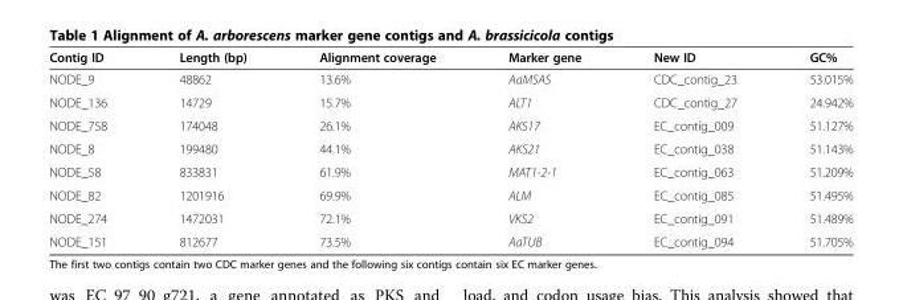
<table><thead><tr><td>Contig ID</td><td>Length (bp)</td><td>Alignment coverage</td><td>Marker gene</td><td>New ID</td><td>GC%</td></tr></thead><tbody><tr><td>NODE_9</td><td>48862</td><td>13.6%</td><td>AaMSAS</td><td>CDC_contig_23</td><td>53.015%</td></tr><tr><td>NODE_136</td><td>14729</td><td>15.7%</td><td>ALT1</td><td>CDC_contig_27</td><td>24.942%</td></tr><tr><td>NODE_758</td><td>174048</td><td>26.1%</td><td>AKS17</td><td>EC_contig_009</td><td>51.127%</td></tr><tr><td>NODE_8</td><td>199480</td><td>44.1%</td><td>AKS21</td><td>EC_contig_038</td><td>51.143%</td></tr><tr><td>NODE_58</td><td>833831</td><td>61.9%</td><td>MAT1-2-1</td><td>EC_contig_063</td><td>51.209%</td></tr><tr><td>NODE_82</td><td>1201916</td><td>69.9%</td><td>ALM</td><td>EC_contig_085</td><td>51.495%</td></tr><tr><td>NODE_274</td><td>1472031</td><td>72.1%</td><td>VKS2</td><td>EC_contig_091</td><td>51.489%</td></tr><tr><td>NODE_151</td><td>812677</td><td>73.5%</td><td>AaTUB</td><td>EC_contig_094</td><td>51.705%</td></tr></tbody></table>